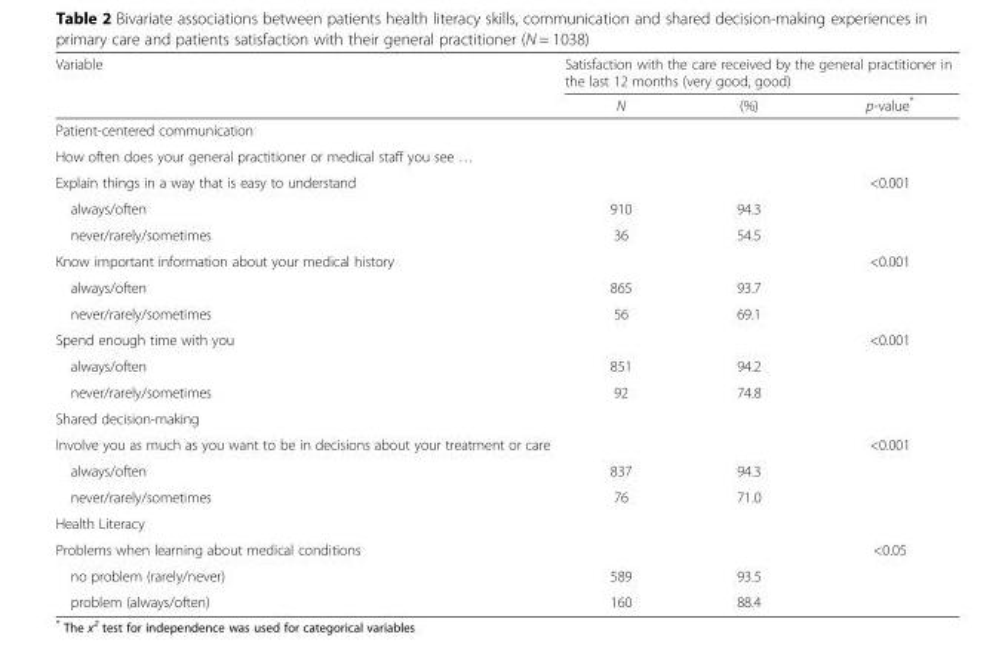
<table><thead><tr><td rowspan="2">Variable</td><td colspan="3">Satisfaction with the care received by the general practitioner in the last 12 months (very good, good)</td></tr><tr><td>N</td><td>(%)</td><td>p-value*</td></tr></thead><tbody><tr><td colspan="4">Patient-centered communication</td></tr><tr><td colspan="4">How often does your general practitioner or medical staff you see …</td></tr><tr><td>Explain things in a way that is easy to understand</td><td></td><td></td><td>&lt;0.001</td></tr><tr><td>always/often</td><td>910</td><td>94.3</td><td></td></tr><tr><td>never/rarely/sometimes</td><td>36</td><td>54.5</td><td></td></tr><tr><td>Know important information about your medical history</td><td></td><td></td><td>&lt;0.001</td></tr><tr><td>always/often</td><td>865</td><td>93.7</td><td></td></tr><tr><td>never/rarely/sometimes</td><td>56</td><td>69.1</td><td></td></tr><tr><td>Spend enough time with you</td><td></td><td></td><td>&lt;0.001</td></tr><tr><td>always/often</td><td>851</td><td>94.2</td><td></td></tr><tr><td>never/rarely/sometimes</td><td>92</td><td>74.8</td><td></td></tr><tr><td colspan="4">Shared decision-making</td></tr><tr><td>Involve you as much as you want to be in decisions about your treatment or care</td><td></td><td></td><td>&lt;0.001</td></tr><tr><td>always/often</td><td>837</td><td>94.3</td><td></td></tr><tr><td>never/rarely/sometimes</td><td>76</td><td>71.0</td><td></td></tr><tr><td colspan="4">Health Literacy</td></tr><tr><td>Problems when learning about medical conditions</td><td></td><td></td><td>&lt;0.05</td></tr><tr><td>no problem (rarely/never)</td><td>589</td><td>93.5</td><td></td></tr><tr><td>problem (always/often)</td><td>160</td><td>88.4</td><td></td></tr></tbody></table>